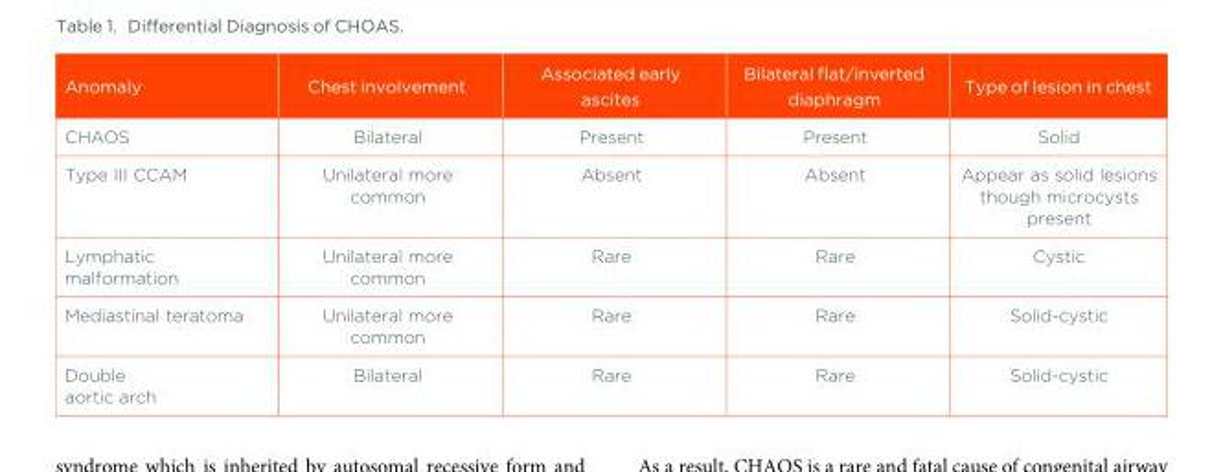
<table><thead><tr><td>Anomaly</td><td>Chest involvement</td><td>Associated early ascites</td><td>Bilateral flat/inverted diaphragm</td><td>Type of lesion in chest</td></tr></thead><tbody><tr><td>CHAOS</td><td>Bilateral</td><td>Present</td><td>Present</td><td>Solid</td></tr><tr><td>Type III CCAM</td><td>Unilateral more common</td><td>Absent</td><td>Absent</td><td>Appear as solid lesions though microcysts present</td></tr><tr><td>Lymphatic malformation</td><td>Unilateral more common</td><td>Rare</td><td>Rare</td><td>Cystic</td></tr><tr><td>Mediastinal teratoma</td><td>Unilateral more common</td><td>Rare</td><td>Rare</td><td>Solid-cystic</td></tr><tr><td>Double aortic arch</td><td>Bilateral</td><td>Rare</td><td>Rare</td><td>Solid-cystic</td></tr></tbody></table>